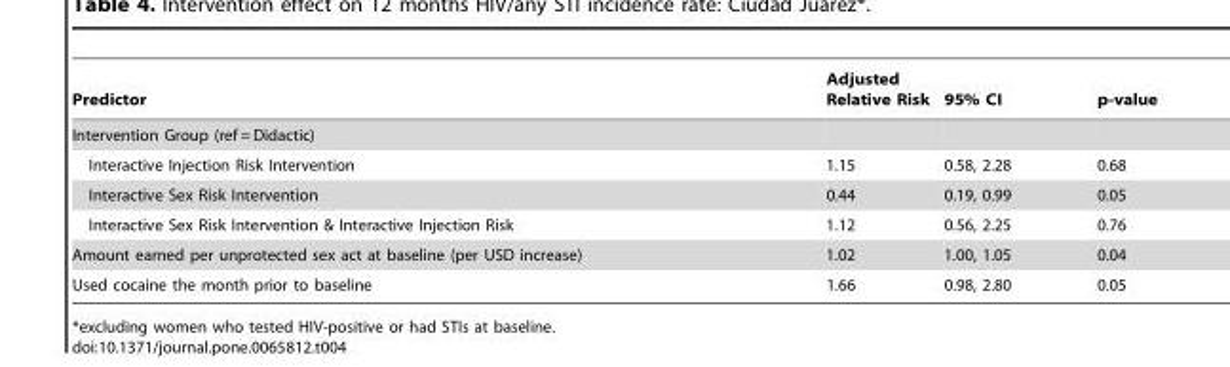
<table><thead><tr><td>Predictor</td><td>Adjusted Relative Risk</td><td>95% CI</td><td>p-value</td></tr></thead><tbody><tr><td colspan="4">Intervention Group (ref = Didactic)</td></tr><tr><td>Interactive Injection Risk Intervention</td><td>1.15</td><td>0.58, 2.28</td><td>0.68</td></tr><tr><td>Interactive Sex Risk Intervention</td><td>0.44</td><td>0.19, 0.99</td><td>0.05</td></tr><tr><td>Interactive Sex Risk Intervention &amp; Interactive Injection Risk</td><td>1.12</td><td>0.56, 2.25</td><td>0.76</td></tr><tr><td>Amount earned per unprotected sex act at baseline (per USD increase)</td><td>1.02</td><td>1.00, 1.05</td><td>0.04</td></tr><tr><td>Used cocaine the month prior to baseline</td><td>1.66</td><td>0.98, 2.80</td><td>0.05</td></tr></tbody></table>